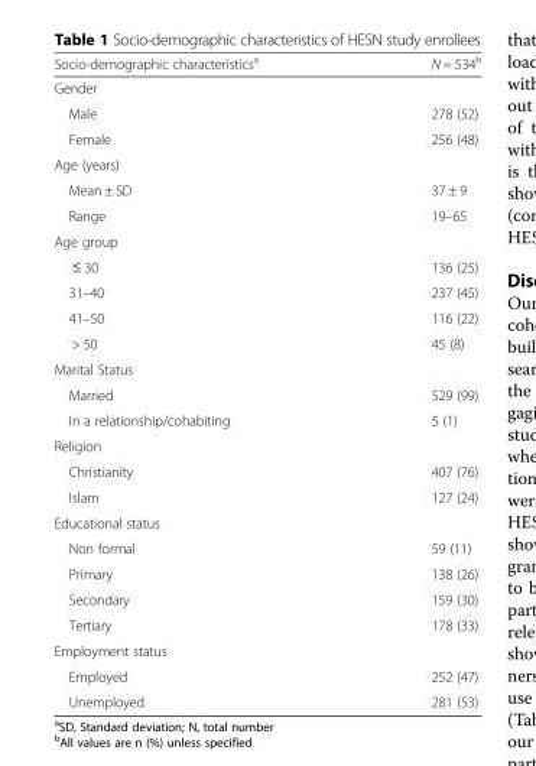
<table><thead><tr><td>Socio-demographic characteristics<sup>a</sup></td><td>N = 534<sup>b</sup></td></tr></thead><tbody><tr><td colspan="2">Gender</td></tr><tr><td>Male</td><td>278 (52)</td></tr><tr><td>Female</td><td>256 (48)</td></tr><tr><td colspan="2">Age (years)</td></tr><tr><td>Mean ± SD</td><td>37 ± 9</td></tr><tr><td>Range</td><td>19–65</td></tr><tr><td colspan="2">Age group</td></tr><tr><td>≤ 30</td><td>136 (25)</td></tr><tr><td>31–40</td><td>237 (45)</td></tr><tr><td>41–50</td><td>116 (22)</td></tr><tr><td>&gt; 50</td><td>45 (8)</td></tr><tr><td colspan="2">Marital Status</td></tr><tr><td>Married</td><td>529 (99)</td></tr><tr><td>In a relationship/cohabiting</td><td>5 (1)</td></tr><tr><td colspan="2">Religion</td></tr><tr><td>Christianity</td><td>407 (76)</td></tr><tr><td>Islam</td><td>127 (24)</td></tr><tr><td colspan="2">Educational status</td></tr><tr><td>Non formal</td><td>59 (11)</td></tr><tr><td>Primary</td><td>138 (26)</td></tr><tr><td>Secondary</td><td>159 (30)</td></tr><tr><td>Tertiary</td><td>178 (33)</td></tr><tr><td colspan="2">Employment status</td></tr><tr><td>Employed</td><td>252 (47)</td></tr><tr><td>Unemployed</td><td>281 (53)</td></tr></tbody></table>